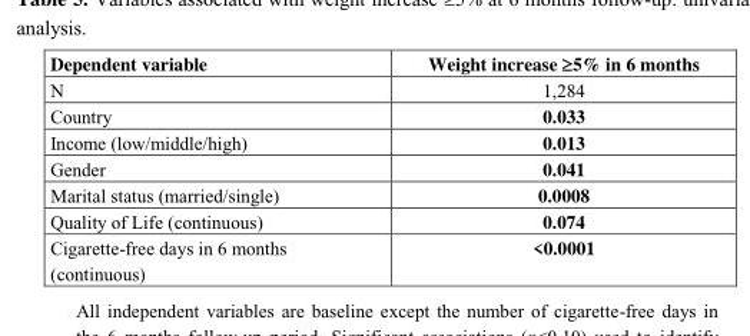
<table><thead><tr><td>Dependent variable</td><td>Weight increase ≥5% in 6 months</td></tr></thead><tbody><tr><td>N</td><td>1,284</td></tr><tr><td>Country</td><td>0.033</td></tr><tr><td>Income (low/middle/high)</td><td>0.013</td></tr><tr><td>Gender</td><td>0.041</td></tr><tr><td>Marital status (married/single)</td><td>0.0008</td></tr><tr><td>Quality of Life (continuous)</td><td>0.074</td></tr><tr><td>Cigarette-free days in 6 months (continuous)</td><td>&lt;0.0001</td></tr></tbody></table>